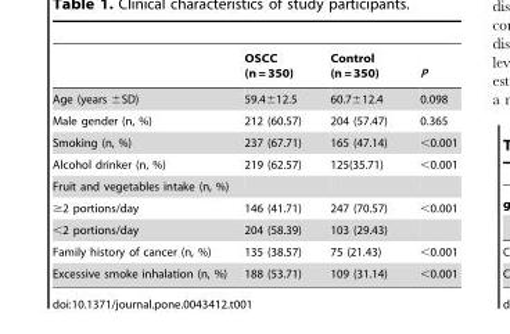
<table><thead><tr><td></td><td>OSCC (n = 350)</td><td>Control (n = 350)</td><td>P</td></tr></thead><tbody><tr><td>Age (years ±SD)</td><td>59.4±12.5</td><td>60.7±12.4</td><td>0.098</td></tr><tr><td>Male gender (n, %)</td><td>212 (60.57)</td><td>204 (57.47)</td><td>0.365</td></tr><tr><td>Smoking (n, %)</td><td>237 (67.71)</td><td>165 (47.14)</td><td>&lt;0.001</td></tr><tr><td>Alcohol drinker (n, %)</td><td>219 (62.57)</td><td>125(35.71)</td><td>&lt;0.001</td></tr><tr><td colspan="4">Fruit and vegetables intake (n, %)</td></tr><tr><td>≥2 portions/day</td><td>146 (41.71)</td><td>247 (70.57)</td><td>&lt;0.001</td></tr><tr><td>&lt;2 portions/day</td><td>204 (58.39)</td><td>103 (29.43)</td><td></td></tr><tr><td>Family history of cancer (n, %)</td><td>135 (38.57)</td><td>75 (21.43)</td><td>&lt;0.001</td></tr><tr><td>Excessive smoke inhalation (n, %)</td><td>188 (53.71)</td><td>109 (31.14)</td><td>&lt;0.001</td></tr></tbody></table>